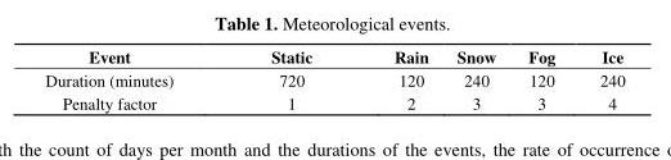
<table><thead><tr><td>Event</td><td>Static</td><td>Rain</td><td>Snow</td><td>Fog</td><td>Ice</td></tr></thead><tbody><tr><td>Duration (minutes)</td><td>720</td><td>120</td><td>240</td><td>120</td><td>240</td></tr><tr><td>Penalty factor</td><td>1</td><td>2</td><td>3</td><td>3</td><td>4</td></tr></tbody></table>